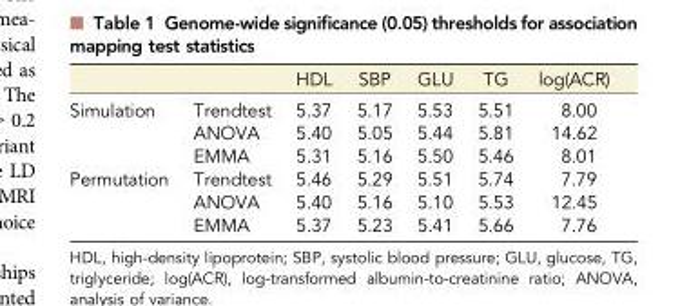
<table><thead><tr><td></td><td></td><td>HDL</td><td>SBP</td><td>GLU</td><td>TG</td><td>log(ACR)</td></tr></thead><tbody><tr><td rowspan="3">Simulation</td><td>Trendtest</td><td>5.37</td><td>5.17</td><td>5.53</td><td>5.51</td><td>8.00</td></tr><tr><td>ANOVA</td><td>5.40</td><td>5.05</td><td>5.44</td><td>5.81</td><td>14.62</td></tr><tr><td>EMMA</td><td>5.31</td><td>5.16</td><td>5.50</td><td>5.46</td><td>8.01</td></tr><tr><td rowspan="3">Permutation</td><td>Trendtest</td><td>5.46</td><td>5.29</td><td>5.51</td><td>5.74</td><td>7.79</td></tr><tr><td>ANOVA</td><td>5.40</td><td>5.16</td><td>5.10</td><td>5.53</td><td>12.45</td></tr><tr><td>EMMA</td><td>5.37</td><td>5.23</td><td>5.41</td><td>5.66</td><td>7.76</td></tr></tbody></table>